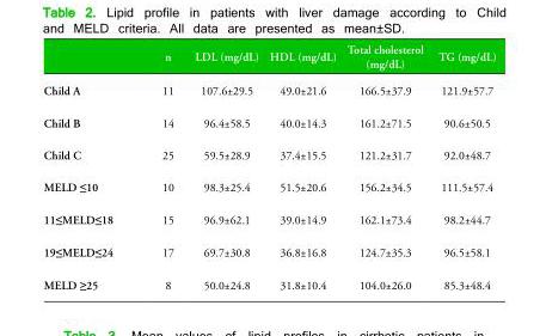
<table><thead><tr><td></td><td>n</td><td>LDL (mg/dL)</td><td>HDL (mg/dL)</td><td>Total cholesterol (mg/dL)</td><td>TG (mg/dL)</td></tr></thead><tbody><tr><td>Child A</td><td>11</td><td>107.6±29.5</td><td>49.0±21.6</td><td>166.5±37.9</td><td>121.9±57.7</td></tr><tr><td>Child B</td><td>14</td><td>96.4±58.5</td><td>40.0±14.3</td><td>161.2±71.5</td><td>90.6±50.5</td></tr><tr><td>Child C</td><td>25</td><td>59.5±28.9</td><td>37.4±15.5</td><td>121.2±31.7</td><td>92.0±48.7</td></tr><tr><td>MELD ≤10</td><td>10</td><td>98.3±25.4</td><td>51.5±20.6</td><td>156.2±34.5</td><td>111.5±57.4</td></tr><tr><td>11≤MELD≤18</td><td>15</td><td>96.9±62.1</td><td>39.0±14.9</td><td>162.1±73.4</td><td>98.2±44.7</td></tr><tr><td>19≤MELD≤24</td><td>17</td><td>69.7±30.8</td><td>36.8±16.8</td><td>124.7±35.3</td><td>96.5±58.1</td></tr><tr><td>MELD ≥25</td><td>8</td><td>50.0±24.8</td><td>31.8±10.4</td><td>104.0±26.0</td><td>85.3±48.4</td></tr></tbody></table>